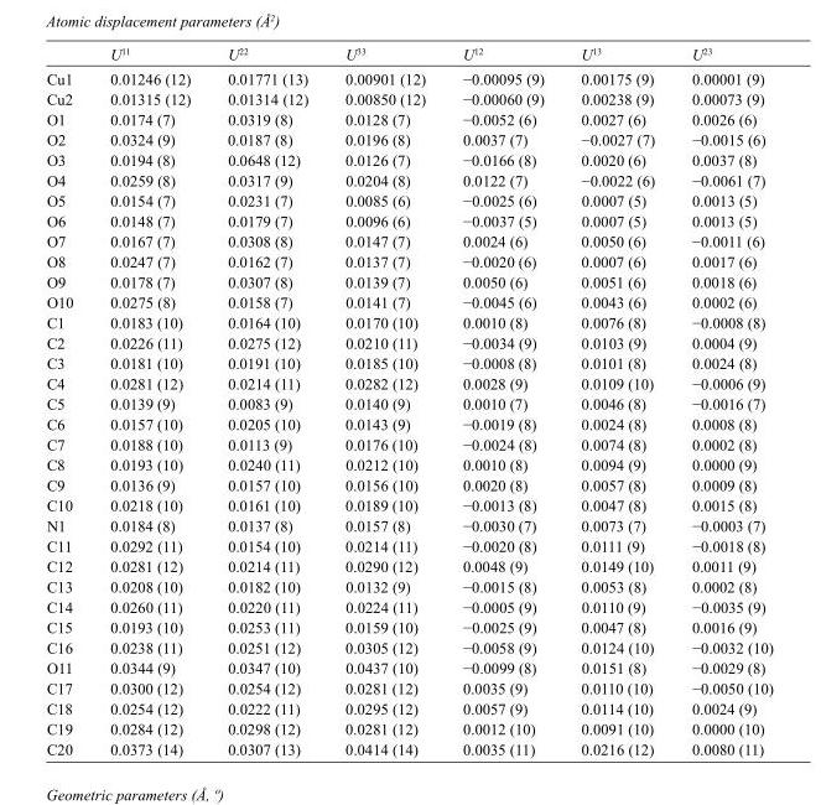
<table><thead><tr><td></td><td>U<sup>11</sup></td><td>U<sup>22</sup></td><td>U<sup>33</sup></td><td>U<sup>12</sup></td><td>U<sup>13</sup></td><td>U<sup>23</sup></td></tr></thead><tbody><tr><td>Cu1</td><td>0.01246 (12)</td><td>0.01771 (13)</td><td>0.00901 (12)</td><td>−0.00095 (9)</td><td>0.00175 (9)</td><td>0.00001 (9)</td></tr><tr><td>Cu2</td><td>0.01315 (12)</td><td>0.01314 (12)</td><td>0.00850 (12)</td><td>−0.00060 (9)</td><td>0.00238 (9)</td><td>0.00073 (9)</td></tr><tr><td>O1</td><td>0.0174 (7)</td><td>0.0319 (8)</td><td>0.0128 (7)</td><td>−0.0052 (6)</td><td>0.0027 (6)</td><td>0.0026 (6)</td></tr><tr><td>O2</td><td>0.0324 (9)</td><td>0.0187 (8)</td><td>0.0196 (8)</td><td>0.0037 (7)</td><td>−0.0027 (7)</td><td>−0.0015 (6)</td></tr><tr><td>O3</td><td>0.0194 (8)</td><td>0.0648 (12)</td><td>0.0126 (7)</td><td>−0.0166 (8)</td><td>0.0020 (6)</td><td>0.0037 (8)</td></tr><tr><td>O4</td><td>0.0259 (8)</td><td>0.0317 (9)</td><td>0.0204 (8)</td><td>0.0122 (7)</td><td>−0.0022 (6)</td><td>−0.0061 (7)</td></tr><tr><td>O5</td><td>0.0154 (7)</td><td>0.0231 (7)</td><td>0.0085 (6)</td><td>−0.0025 (6)</td><td>0.0007 (5)</td><td>0.0013 (5)</td></tr><tr><td>O6</td><td>0.0148 (7)</td><td>0.0179 (7)</td><td>0.0096 (6)</td><td>−0.0037 (5)</td><td>0.0007 (5)</td><td>0.0013 (5)</td></tr><tr><td>O7</td><td>0.0167 (7)</td><td>0.0308 (8)</td><td>0.0147 (7)</td><td>0.0024 (6)</td><td>0.0050 (6)</td><td>−0.0011 (6)</td></tr><tr><td>O8</td><td>0.0247 (7)</td><td>0.0162 (7)</td><td>0.0137 (7)</td><td>−0.0020 (6)</td><td>0.0007 (6)</td><td>0.0017 (6)</td></tr><tr><td>O9</td><td>0.0178 (7)</td><td>0.0307 (8)</td><td>0.0139 (7)</td><td>0.0050 (6)</td><td>0.0051 (6)</td><td>0.0018 (6)</td></tr><tr><td>O10</td><td>0.0275 (8)</td><td>0.0158 (7)</td><td>0.0141 (7)</td><td>−0.0045 (6)</td><td>0.0043 (6)</td><td>0.0002 (6)</td></tr><tr><td>C1</td><td>0.0183 (10)</td><td>0.0164 (10)</td><td>0.0170 (10)</td><td>0.0010 (8)</td><td>0.0076 (8)</td><td>−0.0008 (8)</td></tr><tr><td>C2</td><td>0.0226 (11)</td><td>0.0275 (12)</td><td>0.0210 (11)</td><td>−0.0034 (9)</td><td>0.0103 (9)</td><td>0.0004 (9)</td></tr><tr><td>C3</td><td>0.0181 (10)</td><td>0.0191 (10)</td><td>0.0185 (10)</td><td>−0.0008 (8)</td><td>0.0101 (8)</td><td>0.0024 (8)</td></tr><tr><td>C4</td><td>0.0281 (12)</td><td>0.0214 (11)</td><td>0.0282 (12)</td><td>0.0028 (9)</td><td>0.0109 (10)</td><td>−0.0006 (9)</td></tr><tr><td>C5</td><td>0.0139 (9)</td><td>0.0083 (9)</td><td>0.0140 (9)</td><td>0.0010 (7)</td><td>0.0046 (8)</td><td>−0.0016 (7)</td></tr><tr><td>C6</td><td>0.0157 (10)</td><td>0.0205 (10)</td><td>0.0143 (9)</td><td>−0.0019 (8)</td><td>0.0024 (8)</td><td>0.0008 (8)</td></tr><tr><td>C7</td><td>0.0188 (10)</td><td>0.0113 (9)</td><td>0.0176 (10)</td><td>−0.0024 (8)</td><td>0.0074 (8)</td><td>0.0002 (8)</td></tr><tr><td>C8</td><td>0.0193 (10)</td><td>0.0240 (11)</td><td>0.0212 (10)</td><td>0.0010 (8)</td><td>0.0094 (9)</td><td>0.0000 (9)</td></tr><tr><td>C9</td><td>0.0136 (9)</td><td>0.0157 (10)</td><td>0.0156 (10)</td><td>0.0020 (8)</td><td>0.0057 (8)</td><td>0.0009 (8)</td></tr><tr><td>C10</td><td>0.0218 (10)</td><td>0.0161 (10)</td><td>0.0189 (10)</td><td>−0.0013 (8)</td><td>0.0047 (8)</td><td>0.0015 (8)</td></tr><tr><td>N1</td><td>0.0184 (8)</td><td>0.0137 (8)</td><td>0.0157 (8)</td><td>−0.0030 (7)</td><td>0.0073 (7)</td><td>−0.0003 (7)</td></tr><tr><td>C11</td><td>0.0292 (11)</td><td>0.0154 (10)</td><td>0.0214 (11)</td><td>−0.0020 (8)</td><td>0.0111 (9)</td><td>−0.0018 (8)</td></tr><tr><td>C12</td><td>0.0281 (12)</td><td>0.0214 (11)</td><td>0.0290 (12)</td><td>0.0048 (9)</td><td>0.0149 (10)</td><td>0.0011 (9)</td></tr><tr><td>C13</td><td>0.0208 (10)</td><td>0.0182 (10)</td><td>0.0132 (9)</td><td>−0.0015 (8)</td><td>0.0053 (8)</td><td>0.0002 (8)</td></tr><tr><td>C14</td><td>0.0260 (11)</td><td>0.0220 (11)</td><td>0.0224 (11)</td><td>−0.0005 (9)</td><td>0.0110 (9)</td><td>−0.0035 (9)</td></tr><tr><td>C15</td><td>0.0193 (10)</td><td>0.0253 (11)</td><td>0.0159 (10)</td><td>−0.0025 (9)</td><td>0.0047 (8)</td><td>0.0016 (9)</td></tr><tr><td>C16</td><td>0.0238 (11)</td><td>0.0251 (12)</td><td>0.0305 (12)</td><td>−0.0058 (9)</td><td>0.0124 (10)</td><td>−0.0032 (10)</td></tr><tr><td>O11</td><td>0.0344 (9)</td><td>0.0347 (10)</td><td>0.0437 (10)</td><td>−0.0099 (8)</td><td>0.0151 (8)</td><td>−0.0029 (8)</td></tr><tr><td>C17</td><td>0.0300 (12)</td><td>0.0254 (12)</td><td>0.0281 (12)</td><td>0.0035 (9)</td><td>0.0110 (10)</td><td>−0.0050 (10)</td></tr><tr><td>C18</td><td>0.0254 (12)</td><td>0.0222 (11)</td><td>0.0295 (12)</td><td>0.0057 (9)</td><td>0.0114 (10)</td><td>0.0024 (9)</td></tr><tr><td>C19</td><td>0.0284 (12)</td><td>0.0298 (12)</td><td>0.0281 (12)</td><td>0.0012 (10)</td><td>0.0091 (10)</td><td>0.0000 (10)</td></tr><tr><td>C20</td><td>0.0373 (14)</td><td>0.0307 (13)</td><td>0.0414 (14)</td><td>0.0035 (11)</td><td>0.0216 (12)</td><td>0.0080 (11)</td></tr></tbody></table>